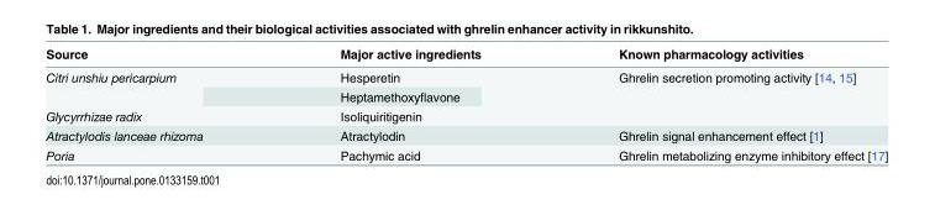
<table><thead><tr><td>Source</td><td>Major active ingredients</td><td>Known pharmacology activities</td></tr></thead><tbody><tr><td rowspan="2">Citri unshiu pericarpium</td><td>Hesperetin</td><td rowspan="3">Ghrelin secretion promoting activity [14, 15]</td></tr><tr><td>Heptamethoxyflavone</td></tr><tr><td>Glycyrrhizae radix</td><td>Isoliquiritigenin</td></tr><tr><td>Atractylodis lanceae rhizoma</td><td>Atractylodin</td><td>Ghrelin signal enhancement effect [1]</td></tr><tr><td>Poria</td><td>Pachymic acid</td><td>Ghrelin metabolizing enzyme inhibitory effect [17]</td></tr></tbody></table>